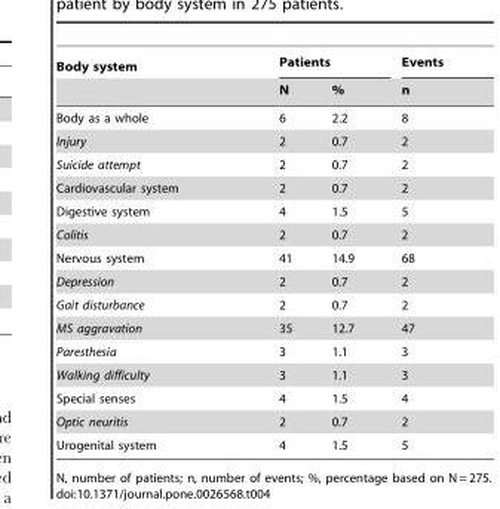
<table><thead><tr><td rowspan="2">Body system</td><td colspan="2">Patients</td><td rowspan="2">Events n</td></tr><tr><td>N</td><td>%</td></tr></thead><tbody><tr><td>Body as a whole</td><td>6</td><td>2.2</td><td>8</td></tr><tr><td>Injury</td><td>2</td><td>0.7</td><td>2</td></tr><tr><td>Suicide attempt</td><td>2</td><td>0.7</td><td>2</td></tr><tr><td>Cardiovascular system</td><td>2</td><td>0.7</td><td>2</td></tr><tr><td>Digestive system</td><td>4</td><td>1.5</td><td>5</td></tr><tr><td>Colitis</td><td>2</td><td>0.7</td><td>2</td></tr><tr><td>Nervous system</td><td>41</td><td>14.9</td><td>68</td></tr><tr><td>Depression</td><td>2</td><td>0.7</td><td>2</td></tr><tr><td>Gait disturbance</td><td>2</td><td>0.7</td><td>2</td></tr><tr><td>MS aggravation</td><td>35</td><td>12.7</td><td>47</td></tr><tr><td>Paresthesia</td><td>3</td><td>1.1</td><td>3</td></tr><tr><td>Walking difficulty</td><td>3</td><td>1.1</td><td>3</td></tr><tr><td>Special senses</td><td>4</td><td>1.5</td><td>4</td></tr><tr><td>Optic neuritis</td><td>2</td><td>0.7</td><td>2</td></tr><tr><td>Urogenital system</td><td>4</td><td>1.5</td><td>5</td></tr></tbody></table>